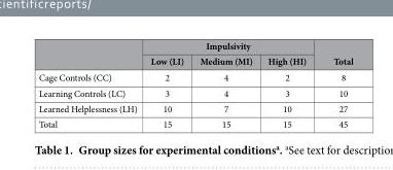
<table><thead><tr><td rowspan="2"></td><td colspan="3">Impulsivity</td><td rowspan="2">Total</td></tr><tr><td>Low (LI)</td><td>Medium (MI)</td><td>High (HI)</td></tr></thead><tbody><tr><td>Cage Controls (CC)</td><td>2</td><td>4</td><td>2</td><td>8</td></tr><tr><td>Learning Controls (LC)</td><td>3</td><td>4</td><td>3</td><td>10</td></tr><tr><td>Learned Helplessness (LH)</td><td>10</td><td>7</td><td>10</td><td>27</td></tr><tr><td>Total</td><td>15</td><td>15</td><td>15</td><td>45</td></tr></tbody></table>